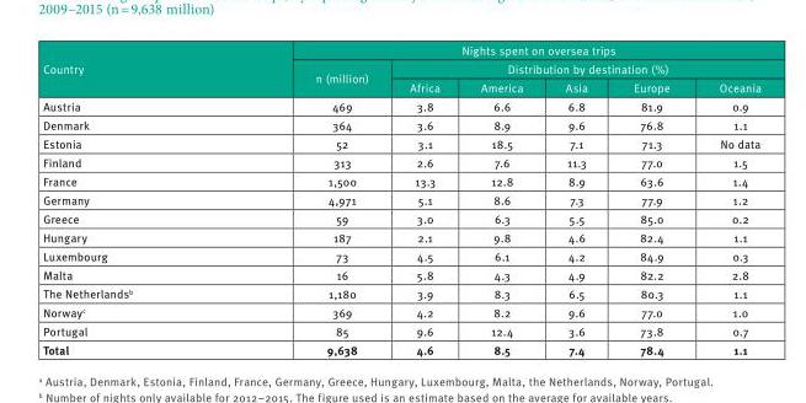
<table><thead><tr><td rowspan="3">Country</td><td colspan="6">Nights spent on oversea trips</td></tr><tr><td rowspan="2">n (million)</td><td colspan="5">Distribution by destination (%)</td></tr><tr><td>Africa</td><td>America</td><td>Asia</td><td>Europe</td><td>Oceania</td></tr></thead><tbody><tr><td>Austria</td><td>469</td><td>3.8</td><td>6.6</td><td>6.8</td><td>81.9</td><td>0.9</td></tr><tr><td>Denmark</td><td>364</td><td>3.6</td><td>8.9</td><td>9.6</td><td>76.8</td><td>1.1</td></tr><tr><td>Estonia</td><td>52</td><td>3.1</td><td>18.5</td><td>7.1</td><td>71.3</td><td>No data</td></tr><tr><td>Finland</td><td>313</td><td>2.6</td><td>7.6</td><td>11.3</td><td>77.0</td><td>1.5</td></tr><tr><td>France</td><td>1,500</td><td>13.3</td><td>12.8</td><td>8.9</td><td>63.6</td><td>1.4</td></tr><tr><td>Germany</td><td>4,971</td><td>5.1</td><td>8.6</td><td>7.3</td><td>77.9</td><td>1.2</td></tr><tr><td>Greece</td><td>59</td><td>3.0</td><td>6.3</td><td>5.5</td><td>85.0</td><td>0.2</td></tr><tr><td>Hungary</td><td>187</td><td>2.1</td><td>9.8</td><td>4.6</td><td>82.4</td><td>1.1</td></tr><tr><td>Luxembourg</td><td>73</td><td>4.5</td><td>6.1</td><td>4.2</td><td>84.9</td><td>0.3</td></tr><tr><td>Malta</td><td>16</td><td>5.8</td><td>4.3</td><td>4.9</td><td>82.2</td><td>2.8</td></tr><tr><td>The Netherlands<sup>b</sup></td><td>1,180</td><td>3.9</td><td>8.3</td><td>6.5</td><td>80.3</td><td>1.1</td></tr><tr><td>Norway<sup>c</sup></td><td>369</td><td>4.2</td><td>8.2</td><td>9.6</td><td>77.0</td><td>1.0</td></tr><tr><td>Portugal</td><td>85</td><td>9.6</td><td>12.4</td><td>3.6</td><td>73.8</td><td>0.7</td></tr><tr><td>Total</td><td>9,638</td><td>4.6</td><td>8.5</td><td>7.4</td><td>78.4</td><td>1.1</td></tr></tbody></table>